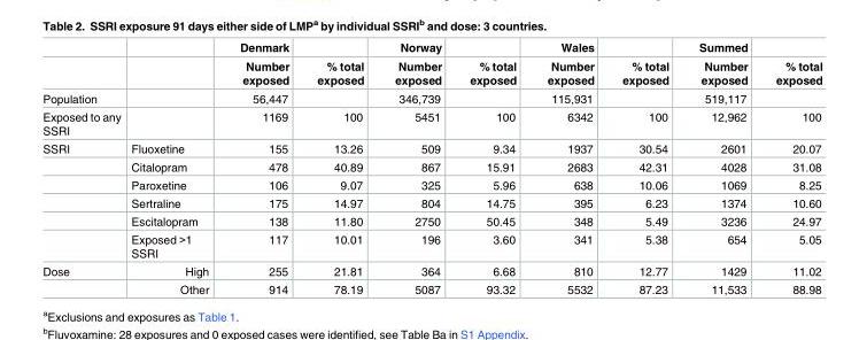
<table><thead><tr><td rowspan="2"></td><td rowspan="2"></td><td rowspan="2">Denmark Number exposed</td><td rowspan="2">% total exposed</td><td rowspan="2">Norway Number exposed</td><td rowspan="2">% total exposed</td><td rowspan="2">Wales Number exposed</td><td rowspan="2">% total exposed</td><td rowspan="2">Summed Number exposed</td><td rowspan="2">% total exposed</td></tr><tr></tr></thead><tbody><tr><td>Population</td><td></td><td>56,447</td><td></td><td>346,739</td><td></td><td>115,931</td><td></td><td>519,117</td><td></td></tr><tr><td>Exposed to any SSRI</td><td></td><td>1169</td><td>100</td><td>5451</td><td>100</td><td>6342</td><td>100</td><td>12,962</td><td>100</td></tr><tr><td rowspan="6">SSRI</td><td>Fluoxetine</td><td>155</td><td>13.26</td><td>509</td><td>9.34</td><td>1937</td><td>30.54</td><td>2601</td><td>20.07</td></tr><tr><td>Citalopram</td><td>478</td><td>40.89</td><td>867</td><td>15.91</td><td>2683</td><td>42.31</td><td>4028</td><td>31.08</td></tr><tr><td>Paroxetine</td><td>106</td><td>9.07</td><td>325</td><td>5.96</td><td>638</td><td>10.06</td><td>1069</td><td>8.25</td></tr><tr><td>Sertraline</td><td>175</td><td>14.97</td><td>804</td><td>14.75</td><td>395</td><td>6.23</td><td>1374</td><td>10.60</td></tr><tr><td>Escitalopram</td><td>138</td><td>11.80</td><td>2750</td><td>50.45</td><td>348</td><td>5.49</td><td>3236</td><td>24.97</td></tr><tr><td>Exposed &gt;1 SSRI</td><td>117</td><td>10.01</td><td>196</td><td>3.60</td><td>341</td><td>5.38</td><td>654</td><td>5.05</td></tr><tr><td rowspan="2">Dose</td><td>High</td><td>255</td><td>21.81</td><td>364</td><td>6.68</td><td>810</td><td>12.77</td><td>1429</td><td>11.02</td></tr><tr><td>Other</td><td>914</td><td>78.19</td><td>5087</td><td>93.32</td><td>5532</td><td>87.23</td><td>11,533</td><td>88.98</td></tr></tbody></table>